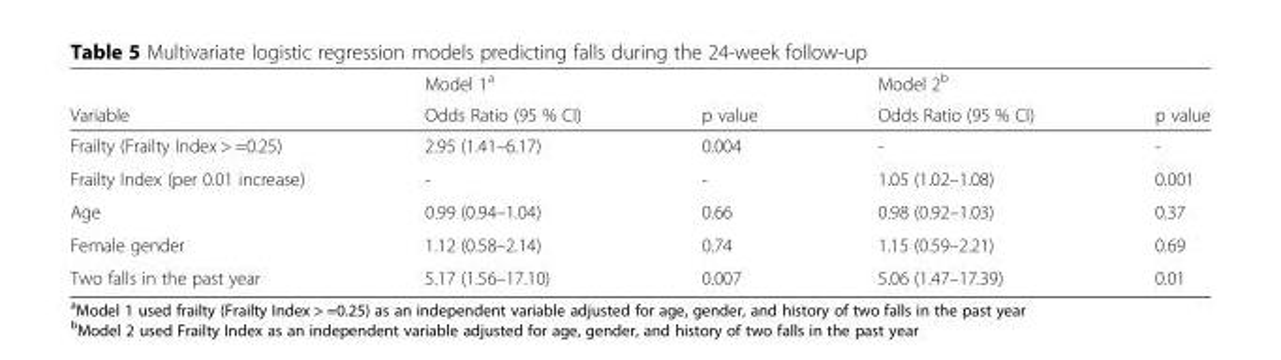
<table><thead><tr><td rowspan="2">Variable</td><td rowspan="2">Model 1<sup>a</sup> Odds Ratio (95 % CI)</td><td rowspan="2">p value</td><td rowspan="2">Model 2<sup>b</sup> Odds Ratio (95 % CI)</td><td rowspan="2">p value</td></tr><tr></tr></thead><tbody><tr><td>Frailty (Frailty Index &gt; =0.25)</td><td>2.95 (1.41–6.17)</td><td>0.004</td><td>-</td><td>-</td></tr><tr><td>Frailty Index (per 0.01 increase)</td><td>-</td><td>-</td><td>1.05 (1.02–1.08)</td><td>0.001</td></tr><tr><td>Age</td><td>0.99 (0.94–1.04)</td><td>0.66</td><td>0.98 (0.92–1.03)</td><td>0.37</td></tr><tr><td>Female gender</td><td>1.12 (0.58–2.14)</td><td>0.74</td><td>1.15 (0.59–2.21)</td><td>0.69</td></tr><tr><td>Two falls in the past year</td><td>5.17 (1.56–17.10)</td><td>0.007</td><td>5.06 (1.47–17.39)</td><td>0.01</td></tr></tbody></table>